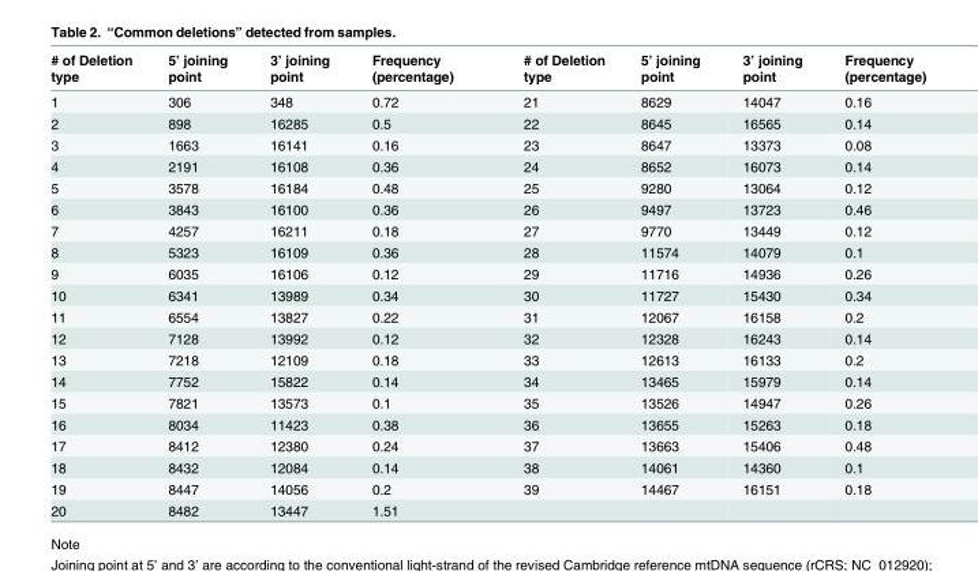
<table><thead><tr><td># of Deletion type</td><td>5’ joining point</td><td>3’ joining point</td><td>Frequency (percentage)</td><td># of Deletion type</td><td>5’ joining point</td><td>3’ joining point</td><td>Frequency (percentage)</td></tr></thead><tbody><tr><td>1</td><td>306</td><td>348</td><td>0.72</td><td>21</td><td>8629</td><td>14047</td><td>0.16</td></tr><tr><td>2</td><td>898</td><td>16285</td><td>0.5</td><td>22</td><td>8645</td><td>16565</td><td>0.14</td></tr><tr><td>3</td><td>1663</td><td>16141</td><td>0.16</td><td>23</td><td>8647</td><td>13373</td><td>0.08</td></tr><tr><td>4</td><td>2191</td><td>16108</td><td>0.36</td><td>24</td><td>8652</td><td>16073</td><td>0.14</td></tr><tr><td>5</td><td>3578</td><td>16184</td><td>0.48</td><td>25</td><td>9280</td><td>13064</td><td>0.12</td></tr><tr><td>6</td><td>3843</td><td>16100</td><td>0.36</td><td>26</td><td>9497</td><td>13723</td><td>0.46</td></tr><tr><td>7</td><td>4257</td><td>16211</td><td>0.18</td><td>27</td><td>9770</td><td>13449</td><td>0.12</td></tr><tr><td>8</td><td>5323</td><td>16109</td><td>0.36</td><td>28</td><td>11574</td><td>14079</td><td>0.1</td></tr><tr><td>9</td><td>6035</td><td>16106</td><td>0.12</td><td>29</td><td>11716</td><td>14936</td><td>0.26</td></tr><tr><td>10</td><td>6341</td><td>13989</td><td>0.34</td><td>30</td><td>11727</td><td>15430</td><td>0.34</td></tr><tr><td>11</td><td>6554</td><td>13827</td><td>0.22</td><td>31</td><td>12067</td><td>16158</td><td>0.2</td></tr><tr><td>12</td><td>7128</td><td>13992</td><td>0.12</td><td>32</td><td>12328</td><td>16243</td><td>0.14</td></tr><tr><td>13</td><td>7218</td><td>12109</td><td>0.18</td><td>33</td><td>12613</td><td>16133</td><td>0.2</td></tr><tr><td>14</td><td>7752</td><td>15822</td><td>0.14</td><td>34</td><td>13465</td><td>15979</td><td>0.14</td></tr><tr><td>15</td><td>7821</td><td>13573</td><td>0.1</td><td>35</td><td>13526</td><td>14947</td><td>0.26</td></tr><tr><td>16</td><td>8034</td><td>11423</td><td>0.38</td><td>36</td><td>13655</td><td>15263</td><td>0.18</td></tr><tr><td>17</td><td>8412</td><td>12380</td><td>0.24</td><td>37</td><td>13663</td><td>15406</td><td>0.48</td></tr><tr><td>18</td><td>8432</td><td>12084</td><td>0.14</td><td>38</td><td>14061</td><td>14360</td><td>0.1</td></tr><tr><td>19</td><td>8447</td><td>14056</td><td>0.2</td><td>39</td><td>14467</td><td>16151</td><td>0.18</td></tr><tr><td>20</td><td>8482</td><td>13447</td><td>1.51</td><td></td><td></td><td></td><td></td></tr></tbody></table>